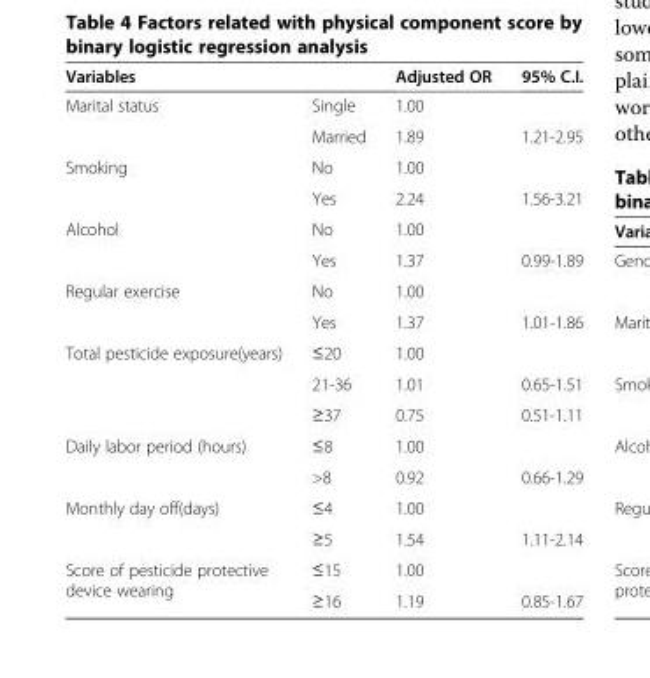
<table><thead><tr><td>Variables</td><td></td><td>Adjusted OR</td><td>95% C.I.</td></tr></thead><tbody><tr><td rowspan="2">Marital status</td><td>Single</td><td>1.00</td><td></td></tr><tr><td>Married</td><td>1.89</td><td>1.21-2.95</td></tr><tr><td rowspan="2">Smoking</td><td>No</td><td>1.00</td><td></td></tr><tr><td>Yes</td><td>2.24</td><td>1.56-3.21</td></tr><tr><td rowspan="2">Alcohol</td><td>No</td><td>1.00</td><td></td></tr><tr><td>Yes</td><td>1.37</td><td>0.99-1.89</td></tr><tr><td rowspan="2">Regular exercise</td><td>No</td><td>1.00</td><td></td></tr><tr><td>Yes</td><td>1.37</td><td>1.01-1.86</td></tr><tr><td rowspan="3">Total pesticide exposure(years)</td><td>≤20</td><td>1.00</td><td></td></tr><tr><td>21-36</td><td>1.01</td><td>0.65-1.51</td></tr><tr><td>≥37</td><td>0.75</td><td>0.51-1.11</td></tr><tr><td rowspan="2">Daily labor period (hours)</td><td>≤8</td><td>1.00</td><td></td></tr><tr><td>&gt;8</td><td>0.92</td><td>0.66-1.29</td></tr><tr><td rowspan="2">Monthly day off(days)</td><td>≤4</td><td>1.00</td><td></td></tr><tr><td>≥5</td><td>1.54</td><td>1.11-2.14</td></tr><tr><td rowspan="2">Score of pesticide protective device wearing</td><td>≤15</td><td>1.00</td><td></td></tr><tr><td>≥16</td><td>1.19</td><td>0.85-1.67</td></tr></tbody></table>